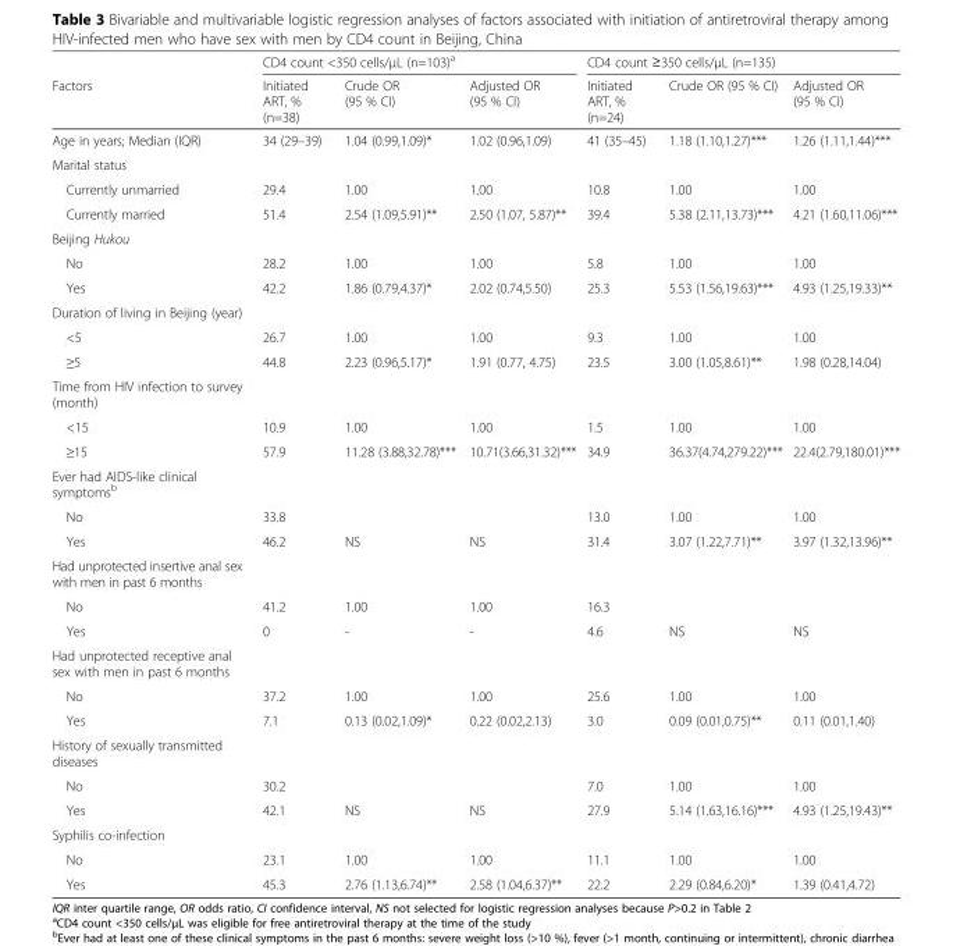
<table><thead><tr><td rowspan="2">Factors</td><td colspan="3">CD4 count &lt;350 cells/μL (n=103)<sup>a</sup></td><td colspan="3">CD4 count ≥350 cells/μL (n=135)</td></tr><tr><td>Initiated ART, % (n=38)</td><td>Crude OR (95 % CI)</td><td>Adjusted OR (95 % CI)</td><td>Initiated ART, % (n=24)</td><td>Crude OR (95 % CI)</td><td>Adjusted OR (95 % CI)</td></tr></thead><tbody><tr><td>Age in years; Median (IQR)</td><td>34 (29–39)</td><td>1.04 (0.99,1.09)*</td><td>1.02 (0.96,1.09)</td><td>41 (35–45)</td><td>1.18 (1.10,1.27)***</td><td>1.26 (1.11,1.44)***</td></tr><tr><td colspan="7">Marital status</td></tr><tr><td>Currently unmarried</td><td>29.4</td><td>1.00</td><td>1.00</td><td>10.8</td><td>1.00</td><td>1.00</td></tr><tr><td>Currently married</td><td>51.4</td><td>2.54 (1.09,5.91)**</td><td>2.50 (1.07, 5.87)**</td><td>39.4</td><td>5.38 (2.11,13.73)***</td><td>4.21 (1.60,11.06)***</td></tr><tr><td colspan="7">Beijing Hukou</td></tr><tr><td>No</td><td>28.2</td><td>1.00</td><td>1.00</td><td>5.8</td><td>1.00</td><td>1.00</td></tr><tr><td>Yes</td><td>42.2</td><td>1.86 (0.79,4.37)*</td><td>2.02 (0.74,5.50)</td><td>25.3</td><td>5.53 (1.56,19.63)***</td><td>4.93 (1.25,19.33)**</td></tr><tr><td colspan="7">Duration of living in Beijing (year)</td></tr><tr><td>&lt;5</td><td>26.7</td><td>1.00</td><td>1.00</td><td>9.3</td><td>1.00</td><td>1.00</td></tr><tr><td>≥5</td><td>44.8</td><td>2.23 (0.96,5.17)*</td><td>1.91 (0.77, 4.75)</td><td>23.5</td><td>3.00 (1.05,8.61)**</td><td>1.98 (0.28,14.04)</td></tr><tr><td colspan="7">Time from HIV infection to survey (month)</td></tr><tr><td>&lt;15</td><td>10.9</td><td>1.00</td><td>1.00</td><td>1.5</td><td>1.00</td><td>1.00</td></tr><tr><td>≥15</td><td>57.9</td><td>11.28 (3.88,32.78)***</td><td>10.71(3.66,31.32)***</td><td>34.9</td><td>36.37(4.74,279.22)***</td><td>22.4(2.79,180.01)***</td></tr><tr><td colspan="7">Ever had AIDS-like clinical symptoms<sup>b</sup></td></tr><tr><td>No</td><td>33.8</td><td></td><td></td><td>13.0</td><td>1.00</td><td>1.00</td></tr><tr><td>Yes</td><td>46.2</td><td>NS</td><td>NS</td><td>31.4</td><td>3.07 (1.22,7.71)**</td><td>3.97 (1.32,13.96)**</td></tr><tr><td colspan="7">Had unprotected insertive anal sex with men in past 6 months</td></tr><tr><td>No</td><td>41.2</td><td>1.00</td><td>1.00</td><td>16.3</td><td></td><td></td></tr><tr><td>Yes</td><td>0</td><td>-</td><td>-</td><td>4.6</td><td>NS</td><td>NS</td></tr><tr><td colspan="7">Had unprotected receptive anal sex with men in past 6 months</td></tr><tr><td>No</td><td>37.2</td><td>1.00</td><td>1.00</td><td>25.6</td><td>1.00</td><td>1.00</td></tr><tr><td>Yes</td><td>7.1</td><td>0.13 (0.02,1.09)*</td><td>0.22 (0.02,2.13)</td><td>3.0</td><td>0.09 (0.01,0.75)**</td><td>0.11 (0.01,1.40)</td></tr><tr><td colspan="7">History of sexually transmitted diseases</td></tr><tr><td>No</td><td>30.2</td><td></td><td></td><td>7.0</td><td>1.00</td><td>1.00</td></tr><tr><td>Yes</td><td>42.1</td><td>NS</td><td>NS</td><td>27.9</td><td>5.14 (1.63,16.16)***</td><td>4.93 (1.25,19.43)**</td></tr><tr><td colspan="7">Syphilis co-infection</td></tr><tr><td>No</td><td>23.1</td><td>1.00</td><td>1.00</td><td>11.1</td><td>1.00</td><td>1.00</td></tr><tr><td>Yes</td><td>45.3</td><td>2.76 (1.13,6.74)**</td><td>2.58 (1.04,6.37)**</td><td>22.2</td><td>2.29 (0.84,6.20)*</td><td>1.39 (0.41,4.72)</td></tr></tbody></table>